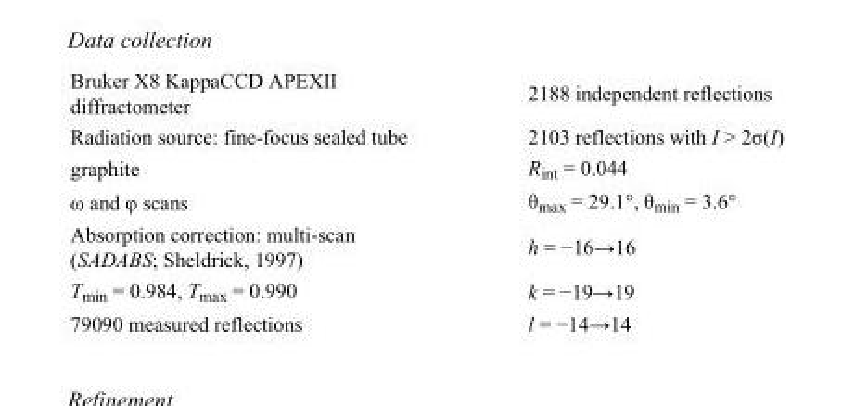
<table><tbody><tr><td>Bruker X8 KappaCCD APEXII diffractometer</td><td>2188 independent reflections</td></tr><tr><td>Radiation source: fine-focus sealed tube</td><td>2103 reflections with I &gt; 2σ(I)</td></tr><tr><td>graphite</td><td>R<sub>int</sub> = 0.044</td></tr><tr><td>ω and φ scans</td><td>θ<sub>max</sub> = 29.1°, θ<sub>min</sub> = 3.6°</td></tr><tr><td>Absorption correction: multi-scan (SADABS; Sheldrick, 1997)</td><td>h = −16→16</td></tr><tr><td>T<sub>min</sub> = 0.984, T<sub>max</sub> = 0.990</td><td>k = −19→19</td></tr><tr><td>79090 measured reflections</td><td>l = −14→14</td></tr></tbody></table>